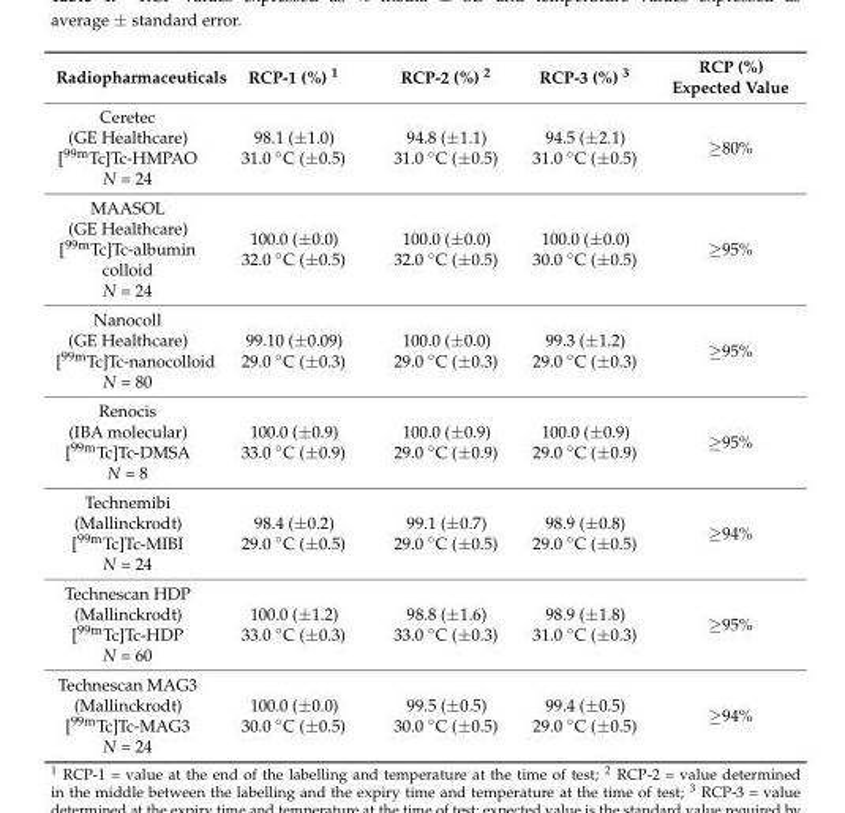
<table><thead><tr><td>Radiopharmaceuticals</td><td>RCP-1 (%) 1</td><td>RCP-2 (%) 2</td><td>RCP-3 (%) 3</td><td>RCP (%) Expected Value</td></tr></thead><tbody><tr><td>Ceretec (GE Healthcare) [99mTc]Tc-HMPAO N = 24</td><td>98.1 (±1.0) 31.0 ◦C (±0.5)</td><td>94.8 (±1.1) 31.0 ◦C (±0.5)</td><td>94.5 (±2.1) 31.0 ◦C (±0.5)</td><td>≥80%</td></tr><tr><td>MAASOL (GE Healthcare) [99mTc]Tc-albumin colloid N = 24</td><td>100.0 (±0.0) 32.0 ◦C (±0.5)</td><td>100.0 (±0.0) 32.0 ◦C (±0.5)</td><td>100.0 (±0.0) 30.0 ◦C (±0.5)</td><td>≥95%</td></tr><tr><td>Nanocoll (GE Healthcare) [99mTc]Tc-nanocolloid N = 80</td><td>99.10 (±0.09) 29.0 ◦C (±0.3)</td><td>100.0 (±0.0) 29.0 ◦C (±0.3)</td><td>99.3 (±1.2) 29.0 ◦C (±0.3)</td><td>≥95%</td></tr><tr><td>Renocis (IBA molecular) [99mTc]Tc-DMSA N = 8</td><td>100.0 (±0.9) 33.0 ◦C (±0.9)</td><td>100.0 (±0.9) 29.0 ◦C (±0.9)</td><td>100.0 (±0.9) 29.0 ◦C (±0.9)</td><td>≥95%</td></tr><tr><td>Technemibi (Mallinckrodt) [99mTc]Tc-MIBI N = 24</td><td>98.4 (±0.2) 29.0 ◦C (±0.5)</td><td>99.1 (±0.7) 29.0 ◦C (±0.5)</td><td>98.9 (±0.8) 29.0 ◦C (±0.5)</td><td>≥94%</td></tr><tr><td>Technescan HDP (Mallinckrodt) [99mTc]Tc-HDP N = 60</td><td>100.0 (±1.2) 33.0 ◦C (±0.3)</td><td>98.8 (±1.6) 33.0 ◦C (±0.3)</td><td>98.9 (±1.8) 31.0 ◦C (±0.3)</td><td>≥95%</td></tr><tr><td>Technescan MAG3 (Mallinckrodt) [99mTc]Tc-MAG3 N = 24</td><td>100.0 (±0.0) 30.0 ◦C (±0.5)</td><td>99.5 (±0.5) 30.0 ◦C (±0.5)</td><td>99.4 (±0.5) 29.0 ◦C (±0.5)</td><td>≥94%</td></tr></tbody></table>